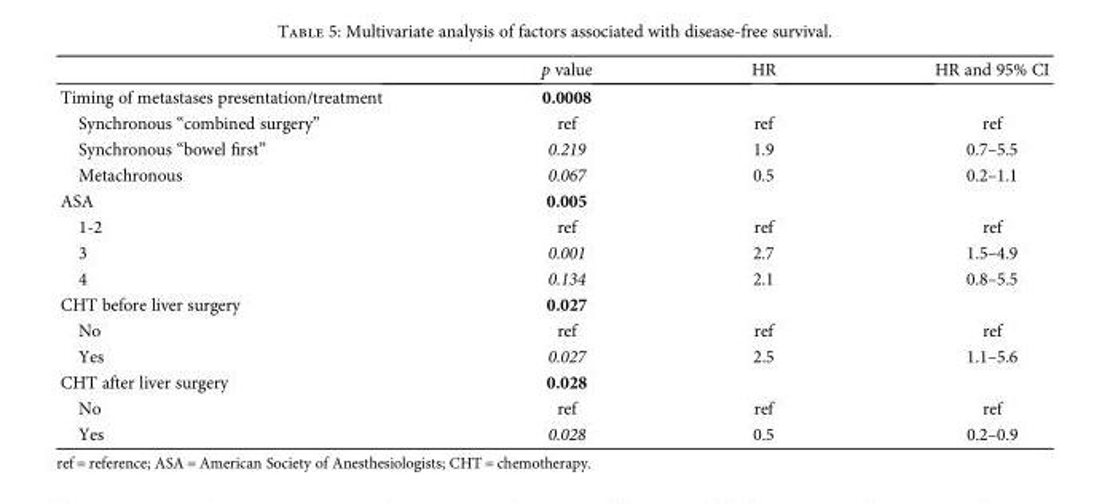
<table><thead><tr><td></td><td>p value</td><td>HR</td><td>HR and 95% CI</td></tr></thead><tbody><tr><td>Timing of metastases presentation/treatment</td><td>0.0008</td><td></td><td></td></tr><tr><td>Synchronous “combined surgery”</td><td>ref</td><td>ref</td><td>ref</td></tr><tr><td>Synchronous “bowel first”</td><td>0.219</td><td>1.9</td><td>0.7–5.5</td></tr><tr><td>Metachronous</td><td>0.067</td><td>0.5</td><td>0.2–1.1</td></tr><tr><td>ASA</td><td>0.005</td><td></td><td></td></tr><tr><td>1-2</td><td>ref</td><td>ref</td><td>ref</td></tr><tr><td>3</td><td>0.001</td><td>2.7</td><td>1.5–4.9</td></tr><tr><td>4</td><td>0.134</td><td>2.1</td><td>0.8–5.5</td></tr><tr><td>CHT before liver surgery</td><td>0.027</td><td></td><td></td></tr><tr><td>No</td><td>ref</td><td>ref</td><td>ref</td></tr><tr><td>Yes</td><td>0.027</td><td>2.5</td><td>1.1–5.6</td></tr><tr><td>CHT after liver surgery</td><td>0.028</td><td></td><td></td></tr><tr><td>No</td><td>ref</td><td>ref</td><td>ref</td></tr><tr><td>Yes</td><td>0.028</td><td>0.5</td><td>0.2–0.9</td></tr></tbody></table>